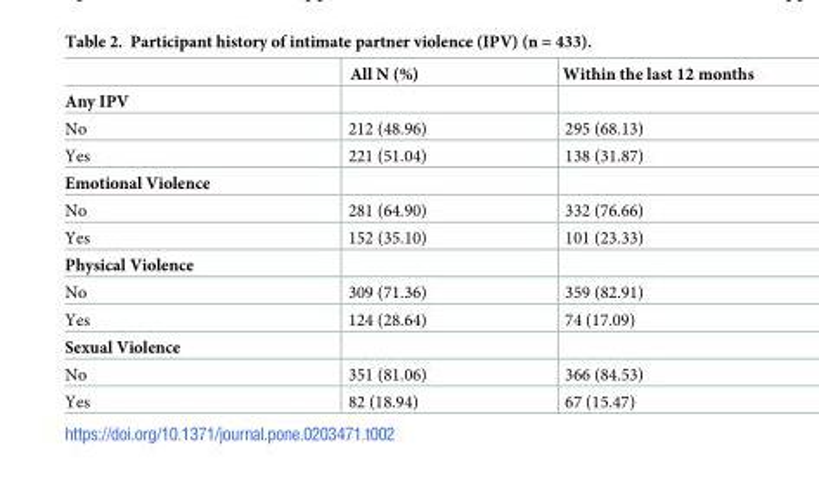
<table><thead><tr><td></td><td>All N (%)</td><td>Within the last 12 months</td></tr></thead><tbody><tr><td colspan="3">Any IPV</td></tr><tr><td>No</td><td>212 (48.96)</td><td>295 (68.13)</td></tr><tr><td>Yes</td><td>221 (51.04)</td><td>138 (31.87)</td></tr><tr><td colspan="3">Emotional Violence</td></tr><tr><td>No</td><td>281 (64.90)</td><td>332 (76.66)</td></tr><tr><td>Yes</td><td>152 (35.10)</td><td>101 (23.33)</td></tr><tr><td colspan="3">Physical Violence</td></tr><tr><td>No</td><td>309 (71.36)</td><td>359 (82.91)</td></tr><tr><td>Yes</td><td>124 (28.64)</td><td>74 (17.09)</td></tr><tr><td colspan="3">Sexual Violence</td></tr><tr><td>No</td><td>351 (81.06)</td><td>366 (84.53)</td></tr><tr><td>Yes</td><td>82 (18.94)</td><td>67 (15.47)</td></tr></tbody></table>